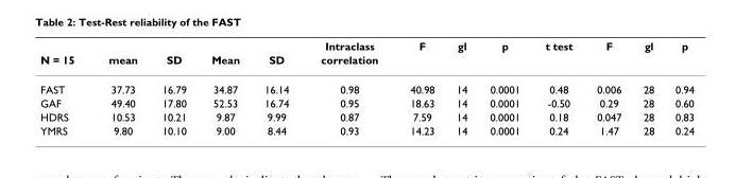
<table><thead><tr><td rowspan="2">N = 15</td><td rowspan="2">mean</td><td rowspan="2">SD</td><td rowspan="2">Mean</td><td rowspan="2">SD</td><td rowspan="2">Intraclass correlation</td><td rowspan="2">F</td><td rowspan="2">gl</td><td rowspan="2">p</td><td rowspan="2">t test</td><td rowspan="2">F</td><td rowspan="2">gl</td><td rowspan="2">p</td></tr><tr></tr></thead><tbody><tr><td>FAST</td><td>37.73</td><td>16.79</td><td>34.87</td><td>16.14</td><td>0.98</td><td>40.98</td><td>14</td><td>0.0001</td><td>0.48</td><td>0.006</td><td>28</td><td>0.94</td></tr><tr><td>GAF</td><td>49.40</td><td>17.80</td><td>52.53</td><td>16.74</td><td>0.95</td><td>18.63</td><td>14</td><td>0.0001</td><td>-0.50</td><td>0.29</td><td>28</td><td>0.60</td></tr><tr><td>HDRS</td><td>10.53</td><td>10.21</td><td>9.87</td><td>9.99</td><td>0.87</td><td>7.59</td><td>14</td><td>0.0001</td><td>0.18</td><td>0.047</td><td>28</td><td>0.83</td></tr><tr><td>YMRS</td><td>9.80</td><td>10.10</td><td>9.00</td><td>8.44</td><td>0.93</td><td>14.23</td><td>14</td><td>0.0001</td><td>0.24</td><td>1.47</td><td>28</td><td>0.24</td></tr></tbody></table>